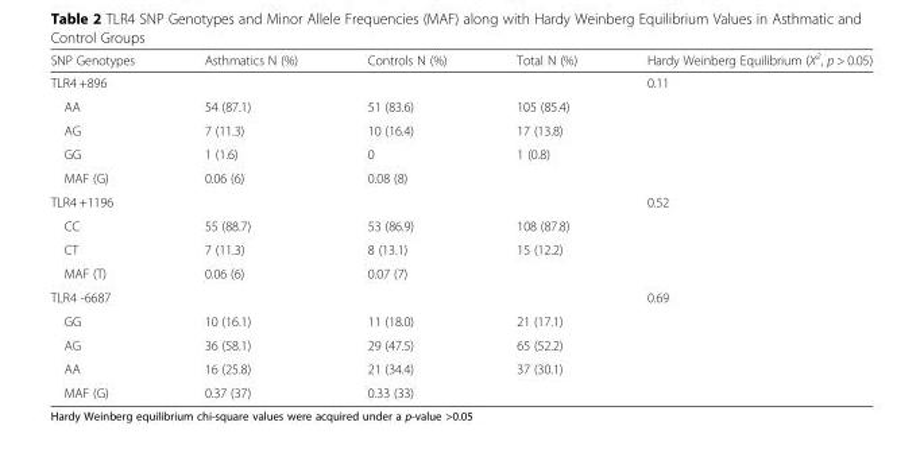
<table><thead><tr><td>SNP Genotypes</td><td>Asthmatics N (%)</td><td>Controls N (%)</td><td>Total N (%)</td><td>Hardy Weinberg Equilibrium (X<sup>2</sup>, p &gt; 0.05)</td></tr></thead><tbody><tr><td colspan="4">TLR4 +896</td><td rowspan="5">0.11</td></tr><tr><td>AA</td><td>54 (87.1)</td><td>51 (83.6)</td><td>105 (85.4)</td></tr><tr><td>AG</td><td>7 (11.3)</td><td>10 (16.4)</td><td>17 (13.8)</td></tr><tr><td>GG</td><td>1 (1.6)</td><td>0</td><td>1 (0.8)</td></tr><tr><td>MAF (G)</td><td>0.06 (6)</td><td>0.08 (8)</td><td></td></tr><tr><td colspan="4">TLR4 +1196</td><td rowspan="4">0.52</td></tr><tr><td>CC</td><td>55 (88.7)</td><td>53 (86.9)</td><td>108 (87.8)</td></tr><tr><td>CT</td><td>7 (11.3)</td><td>8 (13.1)</td><td>15 (12.2)</td></tr><tr><td>MAF (T)</td><td>0.06 (6)</td><td>0.07 (7)</td><td></td></tr><tr><td colspan="4">TLR4 -6687</td><td rowspan="5">0.69</td></tr><tr><td>GG</td><td>10 (16.1)</td><td>11 (18.0)</td><td>21 (17.1)</td></tr><tr><td>AG</td><td>36 (58.1)</td><td>29 (47.5)</td><td>65 (52.2)</td></tr><tr><td>AA</td><td>16 (25.8)</td><td>21 (34.4)</td><td>37 (30.1)</td></tr><tr><td>MAF (G)</td><td>0.37 (37)</td><td>0.33 (33)</td><td></td></tr></tbody></table>